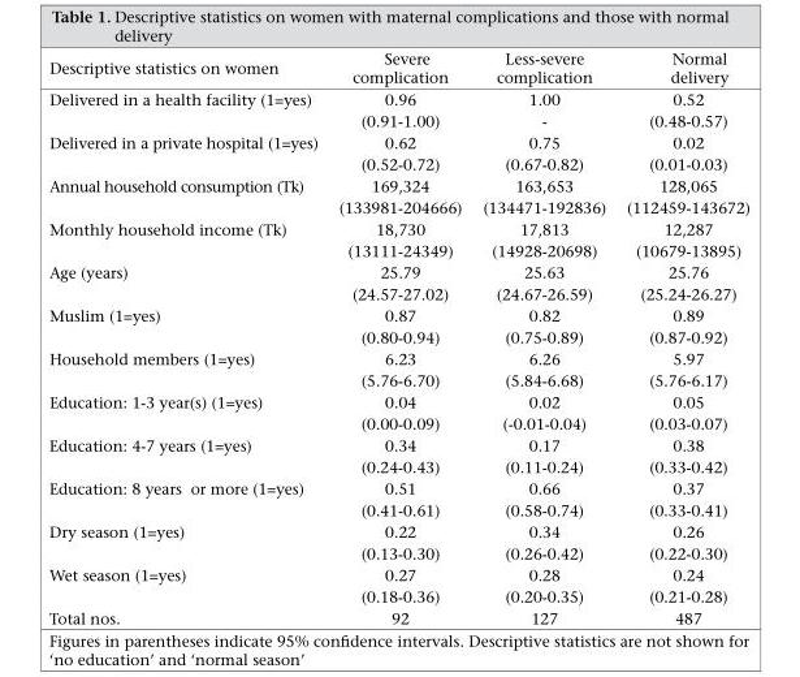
<table><thead><tr><td>Descriptive statistics on women</td><td>Severe complication</td><td>Less-severe complication</td><td>Normal delivery</td></tr></thead><tbody><tr><td rowspan="2">Delivered in a health facility (1=yes)</td><td>0.96</td><td>1.00</td><td>0.52</td></tr><tr><td>(0.91-1.00)</td><td>-</td><td>(0.48-0.57)</td></tr><tr><td rowspan="2">Delivered in a private hospital (1=yes)</td><td>0.62</td><td>0.75</td><td>0.02</td></tr><tr><td>(0.52-0.72)</td><td>(0.67-0.82)</td><td>(0.01-0.03)</td></tr><tr><td rowspan="2">Annual household consumption (Tk)</td><td>169,324</td><td>163,653</td><td>128,065</td></tr><tr><td>(133981-204666)</td><td>(134471-192836)</td><td>(112459-143672)</td></tr><tr><td rowspan="2">Monthly household income (Tk)</td><td>18,730</td><td>17,813</td><td>12,287</td></tr><tr><td>(13111-24349)</td><td>(14928-20698)</td><td>(10679-13895)</td></tr><tr><td rowspan="2">Age (years)</td><td>25.79</td><td>25.63</td><td>25.76</td></tr><tr><td>(24.57-27.02)</td><td>(24.67-26.59)</td><td>(25.24-26.27)</td></tr><tr><td rowspan="2">Muslim (1=yes)</td><td>0.87</td><td>0.82</td><td>0.89</td></tr><tr><td>(0.80-0.94)</td><td>(0.75-0.89)</td><td>(0.87-0.92)</td></tr><tr><td rowspan="2">Household members (1=yes)</td><td>6.23</td><td>6.26</td><td>5.97</td></tr><tr><td>(5.76-6.70)</td><td>(5.84-6.68)</td><td>(5.76-6.17)</td></tr><tr><td rowspan="2">Education: 1-3 year(s) (1=yes)</td><td>0.04</td><td>0.02</td><td>0.05</td></tr><tr><td>(0.00-0.09)</td><td>(-0.01-0.04)</td><td>(0.03-0.07)</td></tr><tr><td rowspan="2">Education: 4-7 years (1=yes)</td><td>0.34</td><td>0.17</td><td>0.38</td></tr><tr><td>(0.24-0.43)</td><td>(0.11-0.24)</td><td>(0.33-0.42)</td></tr><tr><td rowspan="2">Education: 8 years or more (1=yes)</td><td>0.51</td><td>0.66</td><td>0.37</td></tr><tr><td>(0.41-0.61)</td><td>(0.58-0.74)</td><td>(0.33-0.41)</td></tr><tr><td rowspan="2">Dry season (1=yes)</td><td>0.22</td><td>0.34</td><td>0.26</td></tr><tr><td>(0.13-0.30)</td><td>(0.26-0.42)</td><td>(0.22-0.30)</td></tr><tr><td rowspan="2">Wet season (1=yes)</td><td>0.27</td><td>0.28</td><td>0.24</td></tr><tr><td>(0.18-0.36)</td><td>(0.20-0.35)</td><td>(0.21-0.28)</td></tr><tr><td>Total nos.</td><td>92</td><td>127</td><td>487</td></tr></tbody></table>